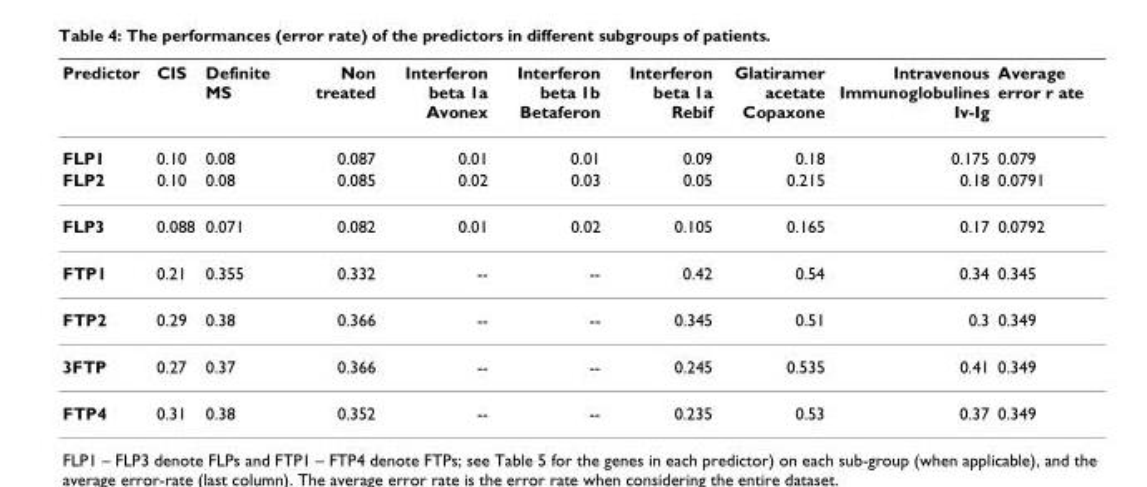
<table><thead><tr><td>Predictor</td><td>CIS</td><td>Definite MS</td><td>Non treated</td><td>Interferon beta 1a Avonex</td><td>Interferon beta 1b Betaferon</td><td>Interferon beta 1a Rebif</td><td>Glatiramer acetate Copaxone</td><td>Intravenous Immunoglobulines Iv-Ig</td><td>Average error r ate</td></tr></thead><tbody><tr><td>FLP1</td><td>0.10</td><td>0.08</td><td>0.087</td><td>0.01</td><td>0.01</td><td>0.09</td><td>0.18</td><td>0.175</td><td>0.079</td></tr><tr><td>FLP2</td><td>0.10</td><td>0.08</td><td>0.085</td><td>0.02</td><td>0.03</td><td>0.05</td><td>0.215</td><td>0.18</td><td>0.0791</td></tr><tr><td>FLP3</td><td>0.088</td><td>0.071</td><td>0.082</td><td>0.01</td><td>0.02</td><td>0.105</td><td>0.165</td><td>0.17</td><td>0.0792</td></tr><tr><td>FTP1</td><td>0.21</td><td>0.355</td><td>0.332</td><td>--</td><td>--</td><td>0.42</td><td>0.54</td><td>0.34</td><td>0.345</td></tr><tr><td>FTP2</td><td>0.29</td><td>0.38</td><td>0.366</td><td>--</td><td>--</td><td>0.345</td><td>0.51</td><td>0.3</td><td>0.349</td></tr><tr><td>3FTP</td><td>0.27</td><td>0.37</td><td>0.366</td><td>--</td><td>--</td><td>0.245</td><td>0.535</td><td>0.41</td><td>0.349</td></tr><tr><td>FTP4</td><td>0.31</td><td>0.38</td><td>0.352</td><td>--</td><td>--</td><td>0.235</td><td>0.53</td><td>0.37</td><td>0.349</td></tr></tbody></table>